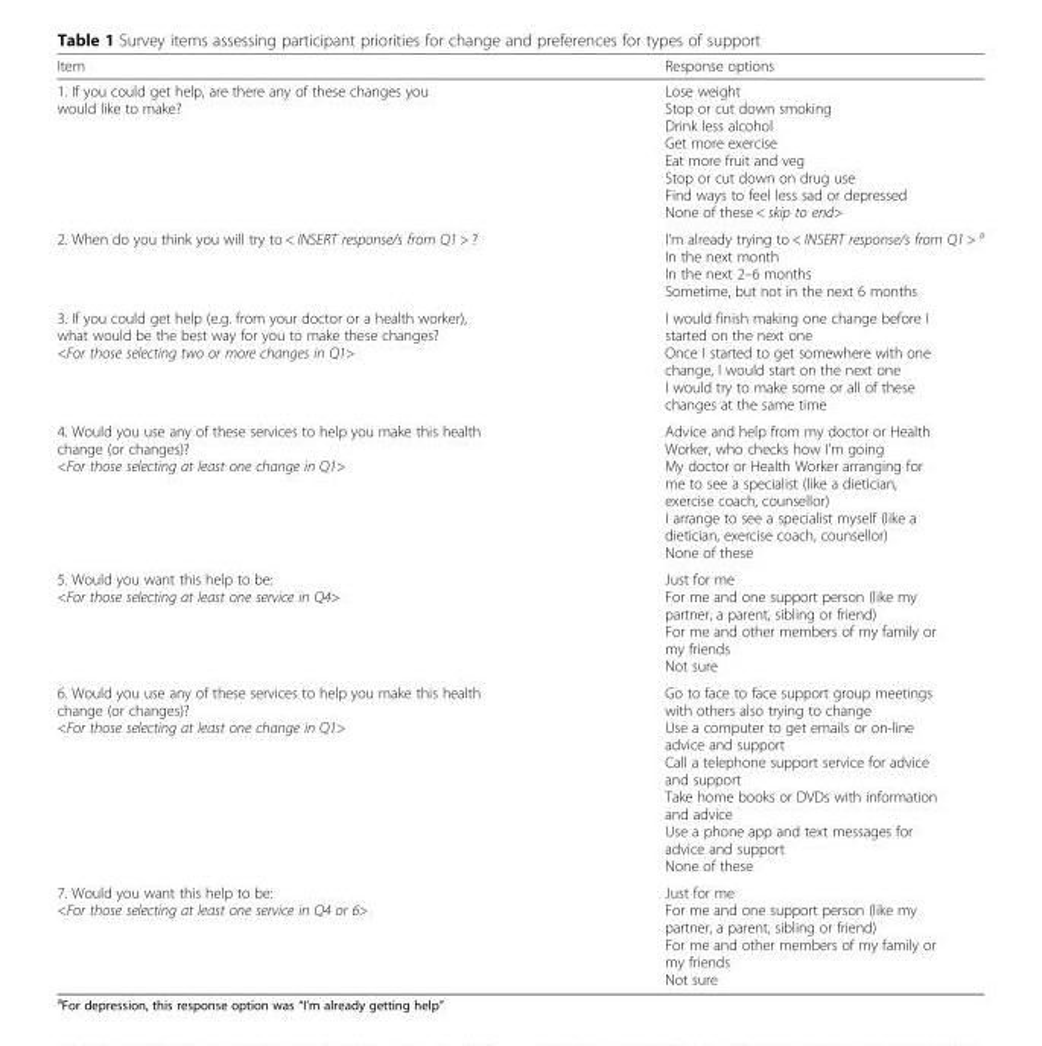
<table><thead><tr><td>Item</td><td>Response options</td></tr></thead><tbody><tr><td>1. If you could get help, are there any of these changes you would like to make?</td><td>Lose weight Stop or cut down smoking Drink less alcohol Get more exercise Eat more fruit and veg Stop or cut down on drug use Find ways to feel less sad or depressed None of these &lt; skip to end&gt;</td></tr><tr><td>2. When do you think you will try to &lt; INSERT response/s from Q1 &gt; ?</td><td>I’m already trying to &lt; INSERT response/s from Q1 &gt; <sup>a</sup> In the next month In the next 2–6 months Sometime, but not in the next 6 months</td></tr><tr><td>3. If you could get help (e.g. from your doctor or a health worker), what would be the best way for you to make these changes? &lt;For those selecting two or more changes in Q1&gt;</td><td>I would finish making one change before I started on the next one Once I started to get somewhere with one change, I would start on the next one I would try to make some or all of these changes at the same time</td></tr><tr><td>4. Would you use any of these services to help you make this health change (or changes)? &lt;For those selecting at least one change in Q1&gt;</td><td>Advice and help from my doctor or Health Worker, who checks how I’m going My doctor or Health Worker arranging for me to see a specialist (like a dietician, exercise coach, counsellor) I arrange to see a specialist myself (like a dietician, exercise coach, counsellor) None of these</td></tr><tr><td>5. Would you want this help to be: &lt;For those selecting at least one service in Q4&gt;</td><td>Just for me For me and one support person (like my partner, a parent, sibling or friend) For me and other members of my family or my friends Not sure</td></tr><tr><td>6. Would you use any of these services to help you make this health change (or changes)? &lt;For those selecting at least one change in Q1&gt;</td><td>Go to face to face support group meetings with others also trying to change Use a computer to get emails or on-line advice and support Call a telephone support service for advice and support Take home books or DVDs with information and advice Use a phone app and text messages for advice and support None of these</td></tr><tr><td>7. Would you want this help to be: &lt;For those selecting at least one service in Q4 or 6&gt;</td><td>Just for me For me and one support person (like my partner, a parent, sibling or friend) For me and other members of my family or my friends Not sure</td></tr></tbody></table>